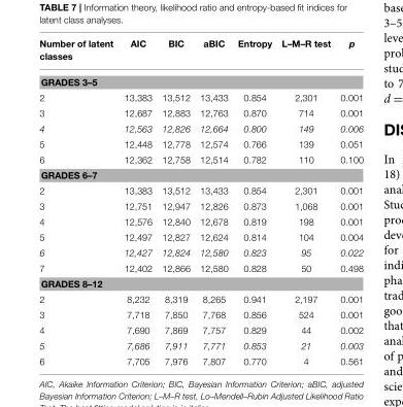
<table><thead><tr><td>Number of latent classes</td><td>AIC</td><td>BIC</td><td>aBIC</td><td>Entropy</td><td>L–M–R test</td><td>p</td></tr></thead><tbody><tr><td colspan="7">GRADES 3–5</td></tr><tr><td>2</td><td>13,383</td><td>13,512</td><td>13,433</td><td>0.854</td><td>2,301</td><td>0.001</td></tr><tr><td>3</td><td>12,687</td><td>12,883</td><td>12,763</td><td>0.870</td><td>714</td><td>0.001</td></tr><tr><td>4</td><td>12,563</td><td>12,826</td><td>12,664</td><td>0.800</td><td>149</td><td>0.006</td></tr><tr><td>5</td><td>12,448</td><td>12,778</td><td>12,574</td><td>0.766</td><td>139</td><td>0.051</td></tr><tr><td>6</td><td>12,362</td><td>12,758</td><td>12,514</td><td>0.782</td><td>110</td><td>0.100</td></tr><tr><td colspan="7">GRADES 6–7</td></tr><tr><td>2</td><td>13,383</td><td>13,512</td><td>13,433</td><td>0.854</td><td>2,301</td><td>0.001</td></tr><tr><td>3</td><td>12,751</td><td>12,947</td><td>12,826</td><td>0.873</td><td>1,068</td><td>0.001</td></tr><tr><td>4</td><td>12,576</td><td>12,840</td><td>12,678</td><td>0.819</td><td>198</td><td>0.001</td></tr><tr><td>5</td><td>12,497</td><td>12,827</td><td>12,624</td><td>0.814</td><td>104</td><td>0.004</td></tr><tr><td>6</td><td>12,427</td><td>12,824</td><td>12,580</td><td>0.823</td><td>95</td><td>0.022</td></tr><tr><td>7</td><td>12,402</td><td>12,866</td><td>12,580</td><td>0.828</td><td>50</td><td>0.498</td></tr><tr><td colspan="7">GRADES 8–12</td></tr><tr><td>2</td><td>8,232</td><td>8,319</td><td>8,265</td><td>0.941</td><td>2,197</td><td>0.001</td></tr><tr><td>3</td><td>7,718</td><td>7,850</td><td>7,768</td><td>0.856</td><td>524</td><td>0.001</td></tr><tr><td>4</td><td>7,690</td><td>7,869</td><td>7,757</td><td>0.829</td><td>44</td><td>0.002</td></tr><tr><td>5</td><td>7,686</td><td>7,911</td><td>7,771</td><td>0.853</td><td>21</td><td>0.003</td></tr><tr><td>6</td><td>7,705</td><td>7,976</td><td>7,807</td><td>0.770</td><td>4</td><td>0.561</td></tr></tbody></table>